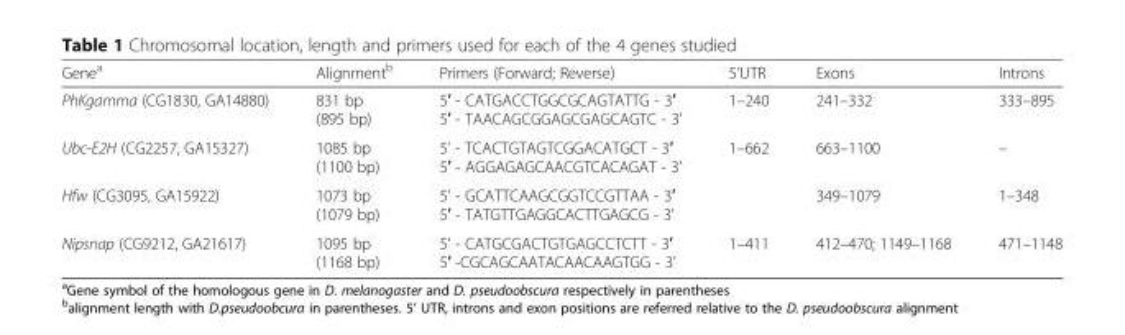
<table><thead><tr><td>Gene<sup>a</sup></td><td>Alignment<sup>b</sup></td><td>Primers (Forward; Reverse)</td><td>5’UTR</td><td>Exons</td><td>Introns</td></tr></thead><tbody><tr><td>PhKgamma (CG1830, GA14880)</td><td>831 bp (895 bp)</td><td>5′ - CATGACCTGGCGCAGTATTG - 3′ 5′ - TAACAGCGGAGCGAGCAGTC - 3’</td><td>1–240</td><td>241–332</td><td>333–895</td></tr><tr><td>Ubc-E2H (CG2257, GA15327)</td><td>1085 bp (1100 bp)</td><td>5’ - TCACTGTAGTCGGACATGCT - 3′ 5′ - AGGAGAGCAACGTCACAGAT - 3’</td><td>1–662</td><td>663–1100</td><td>–</td></tr><tr><td>Hfw (CG3095, GA15922)</td><td>1073 bp (1079 bp)</td><td>5’ - GCATTCAAGCGGTCCGTTAA - 3′ 5′ - TATGTTGAGGCACTTGAGCG - 3’</td><td></td><td>349–1079</td><td>1–348</td></tr><tr><td>Nipsnap (CG9212, GA21617)</td><td>1095 bp (1168 bp)</td><td>5’ - CATGCGACTGTGAGCCTCTT - 3′ 5′ -CGCAGCAATACAACAAGTGG - 3’</td><td>1–411</td><td>412–470; 1149–1168</td><td>471–1148</td></tr></tbody></table>